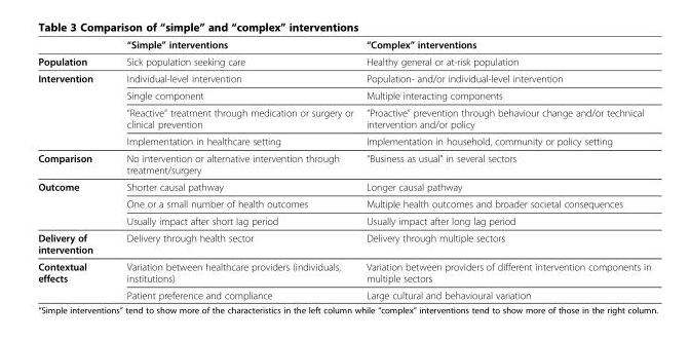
<table><thead><tr><td></td><td>“Simple” interventions</td><td>“Complex” interventions</td></tr></thead><tbody><tr><td>Population</td><td>Sick population seeking care</td><td>Healthy general or at-risk population</td></tr><tr><td rowspan="4">Intervention</td><td>Individual-level intervention</td><td>Population- and/or individual-level intervention</td></tr><tr><td>Single component</td><td>Multiple interacting components</td></tr><tr><td>“Reactive” treatment through medication or surgery or clinical prevention</td><td>“Proactive” prevention through behaviour change and/or technical intervention and/or policy</td></tr><tr><td>Implementation in healthcare setting</td><td>Implementation in household, community or policy setting</td></tr><tr><td>Comparison</td><td>No intervention or alternative intervention through treatment/surgery</td><td>“Business as usual” in several sectors</td></tr><tr><td rowspan="3">Outcome</td><td>Shorter causal pathway</td><td>Longer causal pathway</td></tr><tr><td>One or a small number of health outcomes</td><td>Multiple health outcomes and broader societal consequences</td></tr><tr><td>Usually impact after short lag period</td><td>Usually impact after long lag period</td></tr><tr><td>Delivery of intervention</td><td>Delivery through health sector</td><td>Delivery through multiple sectors</td></tr><tr><td rowspan="2">Contextual effects</td><td>Variation between healthcare providers (individuals, institutions)</td><td>Variation between providers of different intervention components in multiple sectors</td></tr><tr><td>Patient preference and compliance</td><td>Large cultural and behavioural variation</td></tr></tbody></table>